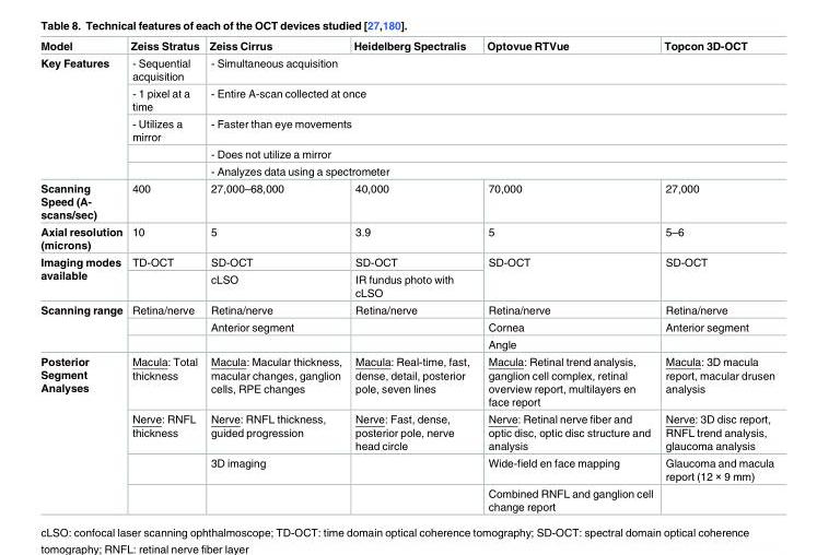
<table><thead><tr><td>Model</td><td>Zeiss Stratus</td><td>Zeiss Cirrus</td><td>Heidelberg Spectralis</td><td>Optovue RTVue</td><td>Topcon 3D-OCT</td></tr></thead><tbody><tr><td rowspan="5">Key Features</td><td>- Sequential acquisition</td><td colspan="4">- Simultaneous acquisition</td></tr><tr><td>- 1 pixel at a time</td><td colspan="4">- Entire A-scan collected at once</td></tr><tr><td>- Utilizes a mirror</td><td colspan="4">- Faster than eye movements</td></tr><tr><td></td><td colspan="4">- Does not utilize a mirror</td></tr><tr><td></td><td colspan="4">- Analyzes data using a spectrometer</td></tr><tr><td>Scanning Speed (A- scans/sec)</td><td>400</td><td>27,000–68,000</td><td>40,000</td><td>70,000</td><td>27,000</td></tr><tr><td>Axial resolution (microns)</td><td>10</td><td>5</td><td>3.9</td><td>5</td><td>5–6</td></tr><tr><td rowspan="2">Imaging modes available</td><td>TD-OCT</td><td>SD-OCT</td><td>SD-OCT</td><td rowspan="2">SD-OCT</td><td rowspan="2">SD-OCT</td></tr><tr><td></td><td>cLSO</td><td>IR fundus photo with cLSO</td></tr><tr><td rowspan="3">Scanning range</td><td>Retina/nerve</td><td>Retina/nerve</td><td>Retina/nerve</td><td>Retina/nerve</td><td>Retina/nerve</td></tr><tr><td></td><td>Anterior segment</td><td></td><td>Cornea</td><td>Anterior segment</td></tr><tr><td></td><td></td><td></td><td>Angle</td><td></td></tr><tr><td rowspan="4">Posterior Segment Analyses</td><td>Macula: Total thickness</td><td>Macula: Macular thickness, macular changes, ganglion cells, RPE changes</td><td>Macula: Real-time, fast, dense, detail, posterior pole, seven lines</td><td>Macula: Retinal trend analysis, ganglion cell complex, retinal overview report, multilayers en face report</td><td>Macula: 3D macula report, macular drusen analysis</td></tr><tr><td>Nerve: RNFL thickness</td><td>Nerve: RNFL thickness, guided progression</td><td>Nerve: Fast, dense, posterior pole, nerve head circle</td><td>Nerve: Retinal nerve fiber and optic disc, optic disc structure and analysis</td><td>Nerve: 3D disc report, RNFL trend analysis, glaucoma analysis</td></tr><tr><td></td><td>3D imaging</td><td></td><td>Wide-field en face mapping</td><td>Glaucoma and macula report (12 × 9 mm)</td></tr><tr><td></td><td></td><td></td><td>Combined RNFL and ganglion cell change report</td><td></td></tr></tbody></table>